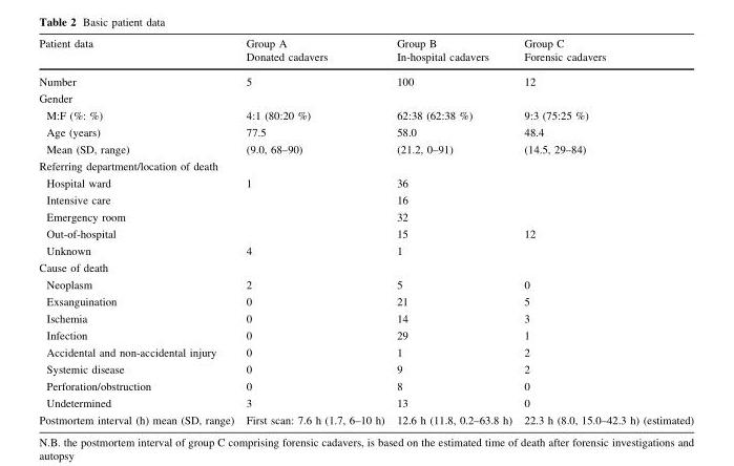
<table><thead><tr><td>Patient data</td><td>Group A Donated cadavers</td><td>Group B In-hospital cadavers</td><td>Group C Forensic cadavers</td></tr></thead><tbody><tr><td>Number</td><td>5</td><td>100</td><td>12</td></tr><tr><td colspan="4">Gender</td></tr><tr><td>M:F (%: %)</td><td>4:1 (80:20 %)</td><td>62:38 (62:38 %)</td><td>9:3 (75:25 %)</td></tr><tr><td>Age (years)</td><td>77.5</td><td>58.0</td><td>48.4</td></tr><tr><td>Mean (SD, range)</td><td>(9.0, 68–90)</td><td>(21.2, 0–91)</td><td>(14.5, 29–84)</td></tr><tr><td colspan="4">Referring department/location of death</td></tr><tr><td>Hospital ward</td><td>1</td><td>36</td><td></td></tr><tr><td>Intensive care</td><td></td><td>16</td><td></td></tr><tr><td>Emergency room</td><td></td><td>32</td><td></td></tr><tr><td>Out-of-hospital</td><td></td><td>15</td><td>12</td></tr><tr><td>Unknown</td><td>4</td><td>1</td><td></td></tr><tr><td colspan="4">Cause of death</td></tr><tr><td>Neoplasm</td><td>2</td><td>5</td><td>0</td></tr><tr><td>Exsanguination</td><td>0</td><td>21</td><td>5</td></tr><tr><td>Ischemia</td><td>0</td><td>14</td><td>3</td></tr><tr><td>Infection</td><td>0</td><td>29</td><td>1</td></tr><tr><td>Accidental and non-accidental injury</td><td>0</td><td>1</td><td>2</td></tr><tr><td>Systemic disease</td><td>0</td><td>9</td><td>2</td></tr><tr><td>Perforation/obstruction</td><td>0</td><td>8</td><td>0</td></tr><tr><td>Undetermined</td><td>3</td><td>13</td><td>0</td></tr><tr><td>Postmortem interval (h) mean (SD, range)</td><td>First scan: 7.6 h (1.7, 6–10 h)</td><td>12.6 h (11.8, 0.2–63.8 h)</td><td>22.3 h (8.0, 15.0–42.3 h) (estimated)</td></tr></tbody></table>